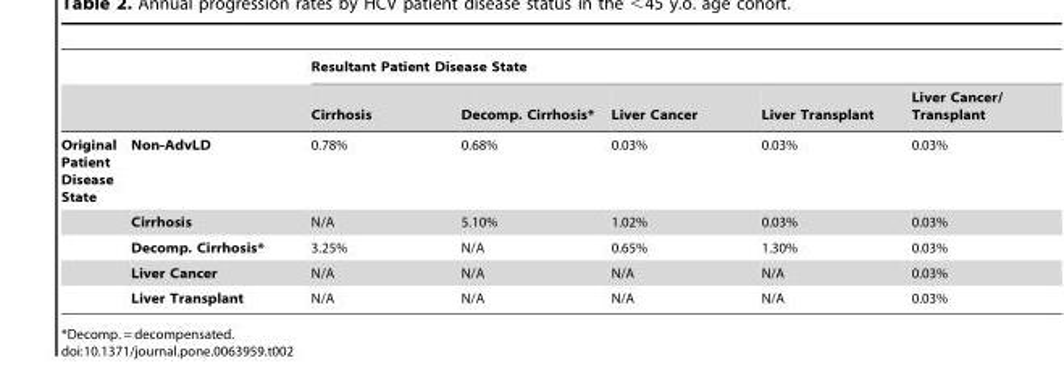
<table><thead><tr><td rowspan="2"></td><td rowspan="2"></td><td colspan="5">Resultant Patient Disease State</td></tr><tr><td>Cirrhosis</td><td>Decomp. Cirrhosis*</td><td>Liver Cancer</td><td>Liver Transplant</td><td>Liver Cancer/ Transplant</td></tr></thead><tbody><tr><td rowspan="5">Original Patient Disease State</td><td>Non-AdvLD</td><td>0.78%</td><td>0.68%</td><td>0.03%</td><td>0.03%</td><td>0.03%</td></tr><tr><td>Cirrhosis</td><td>N/A</td><td>5.10%</td><td>1.02%</td><td>0.03%</td><td>0.03%</td></tr><tr><td>Decomp. Cirrhosis*</td><td>3.25%</td><td>N/A</td><td>0.65%</td><td>1.30%</td><td>0.03%</td></tr><tr><td>Liver Cancer</td><td>N/A</td><td>N/A</td><td>N/A</td><td>N/A</td><td>0.03%</td></tr><tr><td>Liver Transplant</td><td>N/A</td><td>N/A</td><td>N/A</td><td>N/A</td><td>0.03%</td></tr></tbody></table>